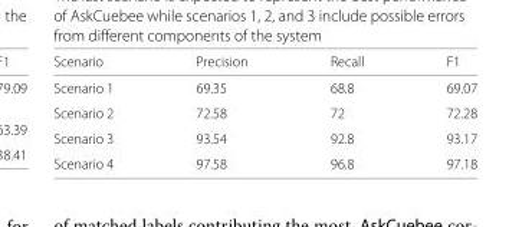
<table><thead><tr><td>Scenario</td><td>Precision</td><td>Recall</td><td>F1</td></tr></thead><tbody><tr><td>Scenario 1</td><td>69.35</td><td>68.8</td><td>69.07</td></tr><tr><td>Scenario 2</td><td>72.58</td><td>72</td><td>72.28</td></tr><tr><td>Scenario 3</td><td>93.54</td><td>92.8</td><td>93.17</td></tr><tr><td>Scenario 4</td><td>97.58</td><td>96.8</td><td>97.18</td></tr></tbody></table>